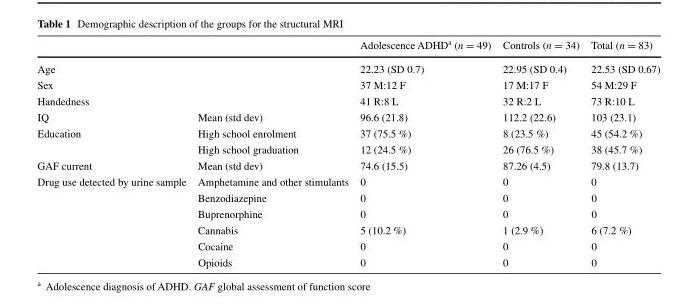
<table><thead><tr><td></td><td></td><td>Adolescence ADHD<sup>a</sup> (n = 49)</td><td>Controls (n = 34)</td><td>Total (n = 83)</td></tr></thead><tbody><tr><td colspan="2">Age</td><td>22.23 (SD 0.7)</td><td>22.95 (SD 0.4)</td><td>22.53 (SD 0.67)</td></tr><tr><td colspan="2">Sex</td><td>37 M:12 F</td><td>17 M:17 F</td><td>54 M:29 F</td></tr><tr><td colspan="2">Handedness</td><td>41 R:8 L</td><td>32 R:2 L</td><td>73 R:10 L</td></tr><tr><td>IQ</td><td>Mean (std dev)</td><td>96.6 (21.8)</td><td>112.2 (22.6)</td><td>103 (23.1)</td></tr><tr><td rowspan="2">Education</td><td>High school enrolment</td><td>37 (75.5 %)</td><td>8 (23.5 %)</td><td>45 (54.2 %)</td></tr><tr><td>High school graduation</td><td>12 (24.5 %)</td><td>26 (76.5 %)</td><td>38 (45.7 %)</td></tr><tr><td>GAF current</td><td>Mean (std dev)</td><td>74.6 (15.5)</td><td>87.26 (4.5)</td><td>79.8 (13.7)</td></tr><tr><td rowspan="6">Drug use detected by urine sample</td><td>Amphetamine and other stimulants</td><td>0</td><td>0</td><td>0</td></tr><tr><td>Benzodiazepine</td><td>0</td><td>0</td><td>0</td></tr><tr><td>Buprenorphine</td><td>0</td><td>0</td><td>0</td></tr><tr><td>Cannabis</td><td>5 (10.2 %)</td><td>1 (2.9 %)</td><td>6 (7.2 %)</td></tr><tr><td>Cocaine</td><td>0</td><td>0</td><td>0</td></tr><tr><td>Opioids</td><td>0</td><td>0</td><td>0</td></tr></tbody></table>